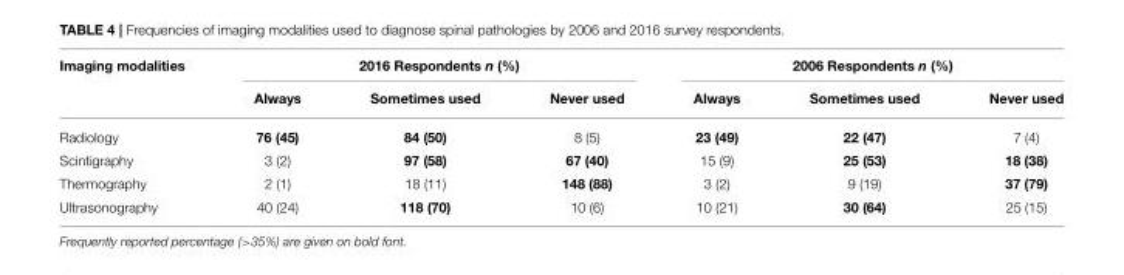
<table><thead><tr><td rowspan="2">Imaging modalities</td><td colspan="3">2016 Respondents n (%)</td><td colspan="3">2006 Respondents n (%)</td></tr><tr><td>Always</td><td>Sometimes used</td><td>Never used</td><td>Always</td><td>Sometimes used</td><td>Never used</td></tr></thead><tbody><tr><td>Radiology</td><td>76 (45)</td><td>84 (50)</td><td>8 (5)</td><td>23 (49)</td><td>22 (47)</td><td>7 (4)</td></tr><tr><td>Scintigraphy</td><td>3 (2)</td><td>97 (58)</td><td>67 (40)</td><td>15 (9)</td><td>25 (53)</td><td>18 (38)</td></tr><tr><td>Thermography</td><td>2 (1)</td><td>18 (11)</td><td>148 (88)</td><td>3 (2)</td><td>9 (19)</td><td>37 (79)</td></tr><tr><td>Ultrasonography</td><td>40 (24)</td><td>118 (70)</td><td>10 (6)</td><td>10 (21)</td><td>30 (64)</td><td>25 (15)</td></tr></tbody></table>